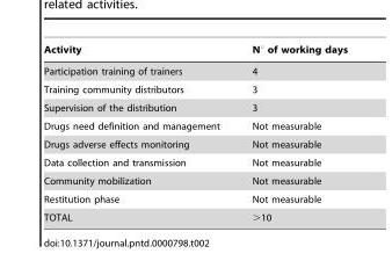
<table><thead><tr><td>Activity</td><td>N° of working days</td></tr></thead><tbody><tr><td>Participation training of trainers</td><td>4</td></tr><tr><td>Training community distributors</td><td>3</td></tr><tr><td>Supervision of the distribution</td><td>3</td></tr><tr><td>Drugs need definition and management</td><td>Not measurable</td></tr><tr><td>Drugs adverse effects monitoring</td><td>Not measurable</td></tr><tr><td>Data collection and transmission</td><td>Not measurable</td></tr><tr><td>Community mobilization</td><td>Not measurable</td></tr><tr><td>Restitution phase</td><td>Not measurable</td></tr><tr><td>TOTAL</td><td>&gt;10</td></tr></tbody></table>